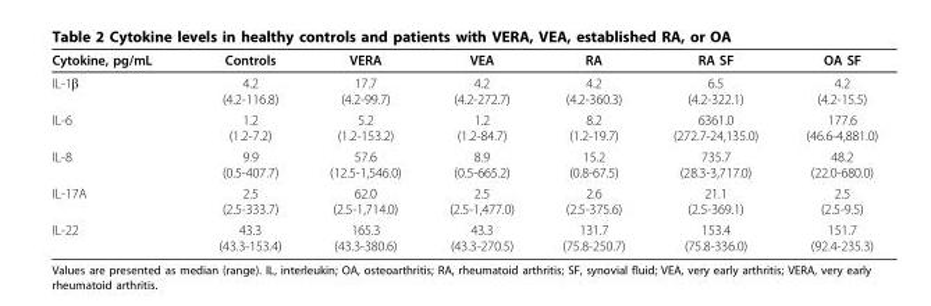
<table><thead><tr><td>Cytokine, pg/mL</td><td>Controls</td><td>VERA</td><td>VEA</td><td>RA</td><td>RA SF</td><td>OA SF</td></tr></thead><tbody><tr><td>IL-1β</td><td>4.2 (4.2-116.8)</td><td>17.7 (4.2-99.7)</td><td>4.2 (4.2-272.7)</td><td>4.2 (4.2-360.3)</td><td>6.5 (4.2-322.1)</td><td>4.2 (4.2-15.5)</td></tr><tr><td>IL-6</td><td>1.2 (1.2-7.2)</td><td>5.2 (1.2-153.2)</td><td>1.2 (1.2-84.7)</td><td>8.2 (1.2-19.7)</td><td>6361.0 (272.7-24,135.0)</td><td>177.6 (46.6-4,881.0)</td></tr><tr><td>IL-8</td><td>9.9 (0.5-407.7)</td><td>57.6 (12.5-1,546.0)</td><td>8.9 (0.5-665.2)</td><td>15.2 (0.8-67.5)</td><td>735.7 (28.3-3,717.0)</td><td>48.2 (22.0-680.0)</td></tr><tr><td>IL-17A</td><td>2.5 (2.5-333.7)</td><td>62.0 (2.5-1,714.0)</td><td>2.5 (2.5-1,477.0)</td><td>2.6 (2.5-375.6)</td><td>21.1 (2.5-369.1)</td><td>2.5 (2.5-9.5)</td></tr><tr><td>IL-22</td><td>43.3 (43.3-153.4)</td><td>165.3 (43.3-380.6)</td><td>43.3 (43.3-270.5)</td><td>131.7 (75.8-250.7)</td><td>153.4 (75.8-336.0)</td><td>151.7 (92.4-235.3)</td></tr></tbody></table>